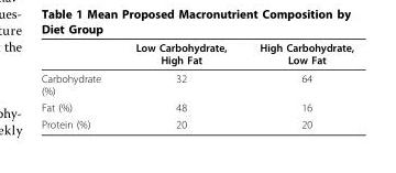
<table><thead><tr><td></td><td>Low Carbohydrate, High Fat</td><td>High Carbohydrate, Low Fat</td></tr></thead><tbody><tr><td>Carbohydrate (%)</td><td>32</td><td>64</td></tr><tr><td>Fat (%)</td><td>48</td><td>16</td></tr><tr><td>Protein (%)</td><td>20</td><td>20</td></tr></tbody></table>